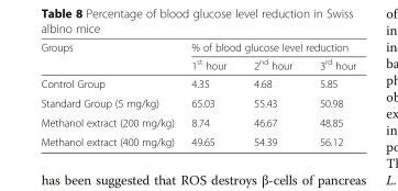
<table><thead><tr><td rowspan="2">Groups</td><td colspan="3">% of blood glucose level reduction</td></tr><tr><td>1<sup>st</sup> hour</td><td>2<sup>nd</sup> hour</td><td>3<sup>rd</sup> hour</td></tr></thead><tbody><tr><td>Control Group</td><td>4.35</td><td>4.68</td><td>5.85</td></tr><tr><td>Standard Group (5 mg/kg)</td><td>65.03</td><td>55.43</td><td>50.98</td></tr><tr><td>Methanol extract (200 mg/kg)</td><td>8.74</td><td>46.67</td><td>48.85</td></tr><tr><td>Methanol extract (400 mg/kg)</td><td>49.65</td><td>54.39</td><td>56.12</td></tr></tbody></table>